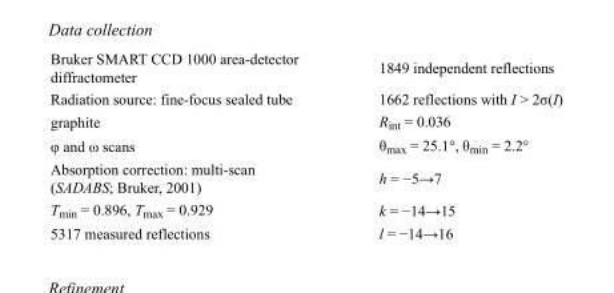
<table><tbody><tr><td>Bruker SMART CCD 1000 area-detector diffractometer</td><td>1849 independent reflections</td></tr><tr><td>Radiation source: fine-focus sealed tube</td><td>1662 reflections with I &gt; 2σ(I)</td></tr><tr><td>graphite</td><td>R<sub>int</sub> = 0.036</td></tr><tr><td>φ and ω scans</td><td>θ<sub>max</sub> = 25.1°, θ<sub>min</sub> = 2.2°</td></tr><tr><td>Absorption correction: multi-scan (SADABS; Bruker, 2001)</td><td>h = −5→7</td></tr><tr><td>T<sub>min</sub> = 0.896, T<sub>max</sub> = 0.929</td><td>k = −14→15</td></tr><tr><td>5317 measured reflections</td><td>l = −14→16</td></tr></tbody></table>